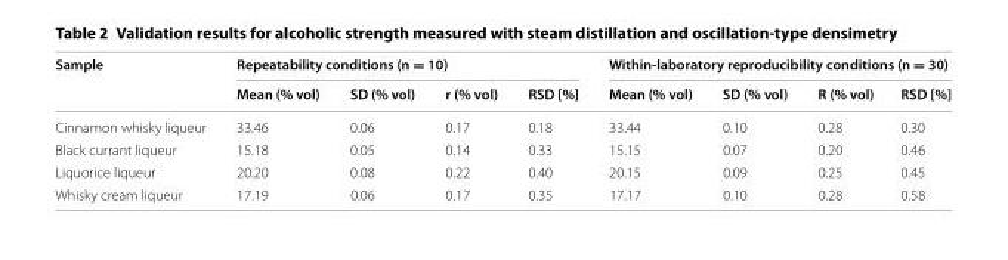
<table><thead><tr><td rowspan="2">Sample</td><td colspan="4">Repeatability conditions (n = 10)</td><td colspan="4">Within-laboratory reproducibility conditions (n = 30)</td></tr><tr><td>Mean (% vol)</td><td>SD (% vol)</td><td>r (% vol)</td><td>RSD [%]</td><td>Mean (% vol)</td><td>SD (% vol)</td><td>R (% vol)</td><td>RSD [%]</td></tr></thead><tbody><tr><td>Cinnamon whisky liqueur</td><td>33.46</td><td>0.06</td><td>0.17</td><td>0.18</td><td>33.44</td><td>0.10</td><td>0.28</td><td>0.30</td></tr><tr><td>Black currant liqueur</td><td>15.18</td><td>0.05</td><td>0.14</td><td>0.33</td><td>15.15</td><td>0.07</td><td>0.20</td><td>0.46</td></tr><tr><td>Liquorice liqueur</td><td>20.20</td><td>0.08</td><td>0.22</td><td>0.40</td><td>20.15</td><td>0.09</td><td>0.25</td><td>0.45</td></tr><tr><td>Whisky cream liqueur</td><td>17.19</td><td>0.06</td><td>0.17</td><td>0.35</td><td>17.17</td><td>0.10</td><td>0.28</td><td>0.58</td></tr></tbody></table>